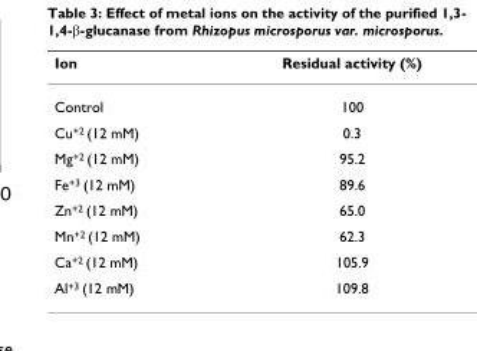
<table><thead><tr><td>Ion</td><td>Residual activity (%)</td></tr></thead><tbody><tr><td>Control</td><td>100</td></tr><tr><td>Cu<sup>+2</sup> (12 mM)</td><td>0.3</td></tr><tr><td>Mg<sup>+2</sup> (12 mM)</td><td>95.2</td></tr><tr><td>Fe<sup>+3</sup> (12 mM)</td><td>89.6</td></tr><tr><td>Zn<sup>+2</sup> (12 mM)</td><td>65.0</td></tr><tr><td>Mn<sup>+2</sup> (12 mM)</td><td>62.3</td></tr><tr><td>Ca<sup>+2</sup> (12 mM)</td><td>105.9</td></tr><tr><td>Al<sup>+3</sup> (12 mM)</td><td>109.8</td></tr></tbody></table>